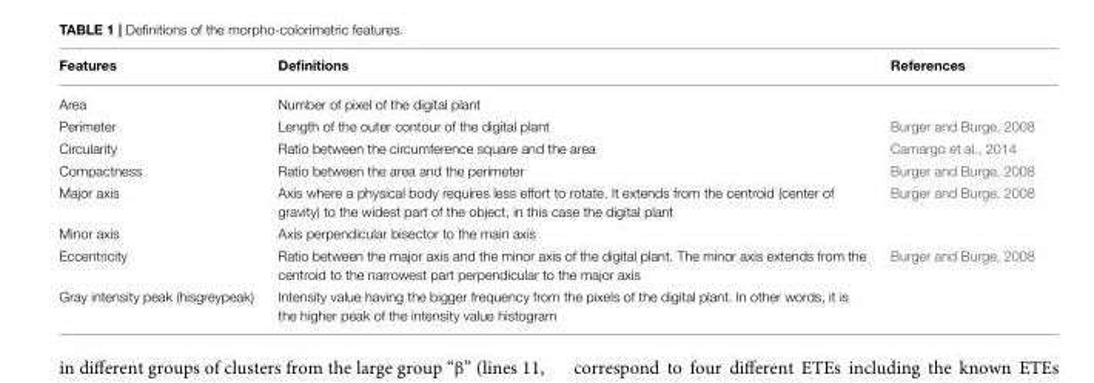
<table><thead><tr><td>Features</td><td>Definitions</td><td>References</td></tr></thead><tbody><tr><td>Area</td><td>Number of pixel of the digital plant</td><td></td></tr><tr><td>Perimeter</td><td>Length of the outer contour of the digital plant</td><td>Burger and Burge, 2008</td></tr><tr><td>Circularity</td><td>Ratio between the circumference square and the area</td><td>Camargo et al., 2014</td></tr><tr><td>Compactness</td><td>Ratio between the area and the perimeter</td><td>Burger and Burge, 2008</td></tr><tr><td>Major axis</td><td>Axis where a physical body requires less effort to rotate. It extends from the centroid (center of gravity) to the widest part of the object, in this case the digital plant</td><td>Burger and Burge, 2008</td></tr><tr><td>Minor axis</td><td>Axis perpendicular bisector to the main axis</td><td></td></tr><tr><td>Eccentricity</td><td>Ratio between the major axis and the minor axis of the digital plant. The minor axis extends from the centroid to the narrowest part perpendicular to the major axis</td><td>Burger and Burge, 2008</td></tr><tr><td>Gray intensity peak (hisgreypeak)</td><td>Intensity value having the bigger frequency from the pixels of the digital plant. In other words, it is the higher peak of the intensity value histogram</td><td></td></tr></tbody></table>